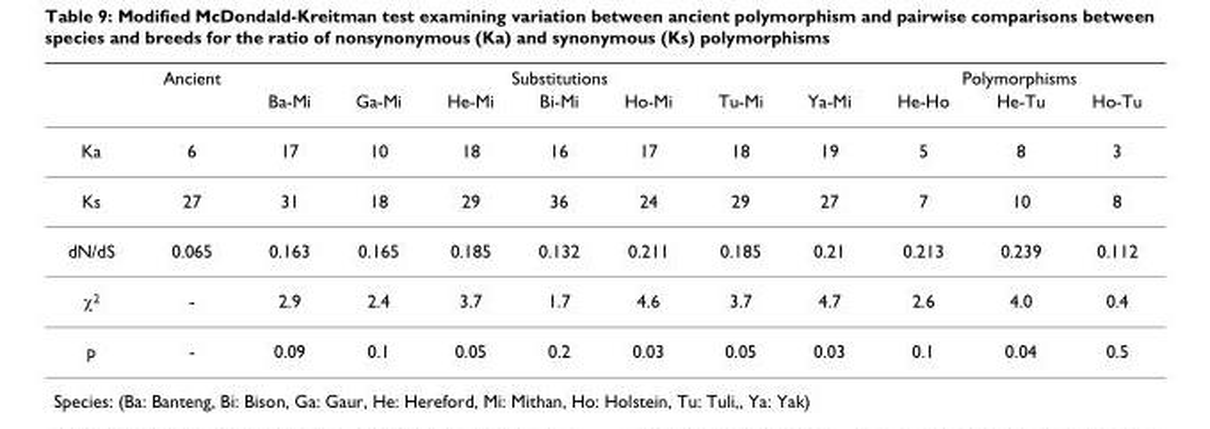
<table><thead><tr><td rowspan="2"></td><td rowspan="2">Ancient</td><td colspan="7">Substitutions</td><td colspan="3">Polymorphisms</td></tr><tr><td>Ba-Mi</td><td>Ga-Mi</td><td>He-Mi</td><td>Bi-Mi</td><td>Ho-Mi</td><td>Tu-Mi</td><td>Ya-Mi</td><td>He-Ho</td><td>He-Tu</td><td>Ho-Tu</td></tr></thead><tbody><tr><td>Ka</td><td>6</td><td>17</td><td>10</td><td>18</td><td>16</td><td>17</td><td>18</td><td>19</td><td>5</td><td>8</td><td>3</td></tr><tr><td>Ks</td><td>27</td><td>31</td><td>18</td><td>29</td><td>36</td><td>24</td><td>29</td><td>27</td><td>7</td><td>10</td><td>8</td></tr><tr><td>dN/dS</td><td>0.065</td><td>0.163</td><td>0.165</td><td>0.185</td><td>0.132</td><td>0.211</td><td>0.185</td><td>0.21</td><td>0.213</td><td>0.239</td><td>0.112</td></tr><tr><td>χ<sup>2</sup></td><td>-</td><td>2.9</td><td>2.4</td><td>3.7</td><td>1.7</td><td>4.6</td><td>3.7</td><td>4.7</td><td>2.6</td><td>4.0</td><td>0.4</td></tr><tr><td>p</td><td>-</td><td>0.09</td><td>0.1</td><td>0.05</td><td>0.2</td><td>0.03</td><td>0.05</td><td>0.03</td><td>0.1</td><td>0.04</td><td>0.5</td></tr></tbody></table>